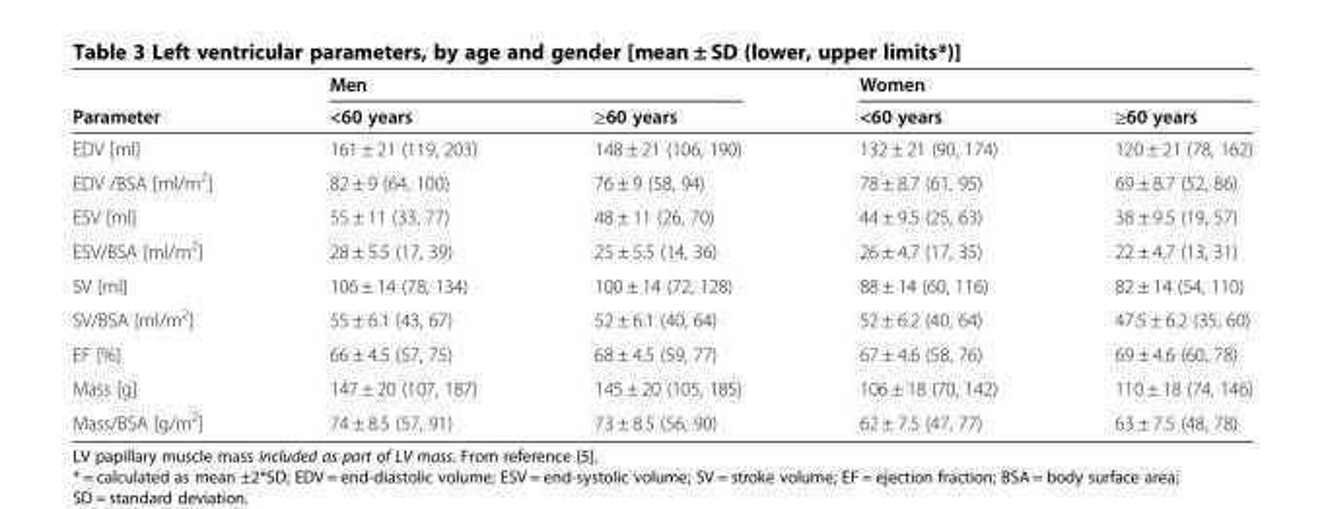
<table><thead><tr><td rowspan="2">Parameter</td><td colspan="2">Men</td><td colspan="2">Women</td></tr><tr><td>&lt;60 years</td><td>≥60 years</td><td>&lt;60 years</td><td>≥60 years</td></tr></thead><tbody><tr><td>EDV [ml]</td><td>161 ± 21 (119, 203)</td><td>148 ± 21 (106, 190)</td><td>132 ± 21 (90, 174)</td><td>120 ± 21 (78, 162)</td></tr><tr><td>EDV /BSA [ml/m<sup>2</sup>]</td><td>82 ± 9 (64, 100)</td><td>76 ± 9 (58, 94)</td><td>78 ± 8.7 (61, 95)</td><td>69 ± 8.7 (52, 86)</td></tr><tr><td>ESV [ml]</td><td>55 ± 11 (33, 77)</td><td>48 ± 11 (26, 70)</td><td>44 ± 9.5 (25, 63)</td><td>38 ± 9.5 (19, 57)</td></tr><tr><td>ESV/BSA [ml/m<sup>2</sup>]</td><td>28 ± 5.5 (17, 39)</td><td>25 ± 5.5 (14, 36)</td><td>26 ± 4.7 (17, 35)</td><td>22 ± 4.7 (13, 31)</td></tr><tr><td>SV [ml]</td><td>106 ± 14 (78, 134)</td><td>100 ± 14 (72, 128)</td><td>88 ± 14 (60, 116)</td><td>82 ± 14 (54, 110)</td></tr><tr><td>SV/BSA [ml/m<sup>2</sup>]</td><td>55 ± 6.1 (43, 67)</td><td>52 ± 6.1 (40, 64)</td><td>52 ± 6.2 (40, 64)</td><td>47.5 ± 6.2 (35, 60)</td></tr><tr><td>EF [%]</td><td>66 ± 4.5 (57, 75)</td><td>68 ± 4.5 (59, 77)</td><td>67 ± 4.6 (58, 76)</td><td>69 ± 4.6 (60, 78)</td></tr><tr><td>Mass [g]</td><td>147 ± 20 (107, 187)</td><td>145 ± 20 (105, 185)</td><td>106 ± 18 (70, 142)</td><td>110 ± 18 (74, 146)</td></tr><tr><td>Mass/BSA [g/m<sup>2</sup>]</td><td>74 ± 8.5 (57, 91)</td><td>73 ± 8.5 (56, 90)</td><td>62 ± 7.5 (47, 77)</td><td>63 ± 7.5 (48, 78)</td></tr></tbody></table>